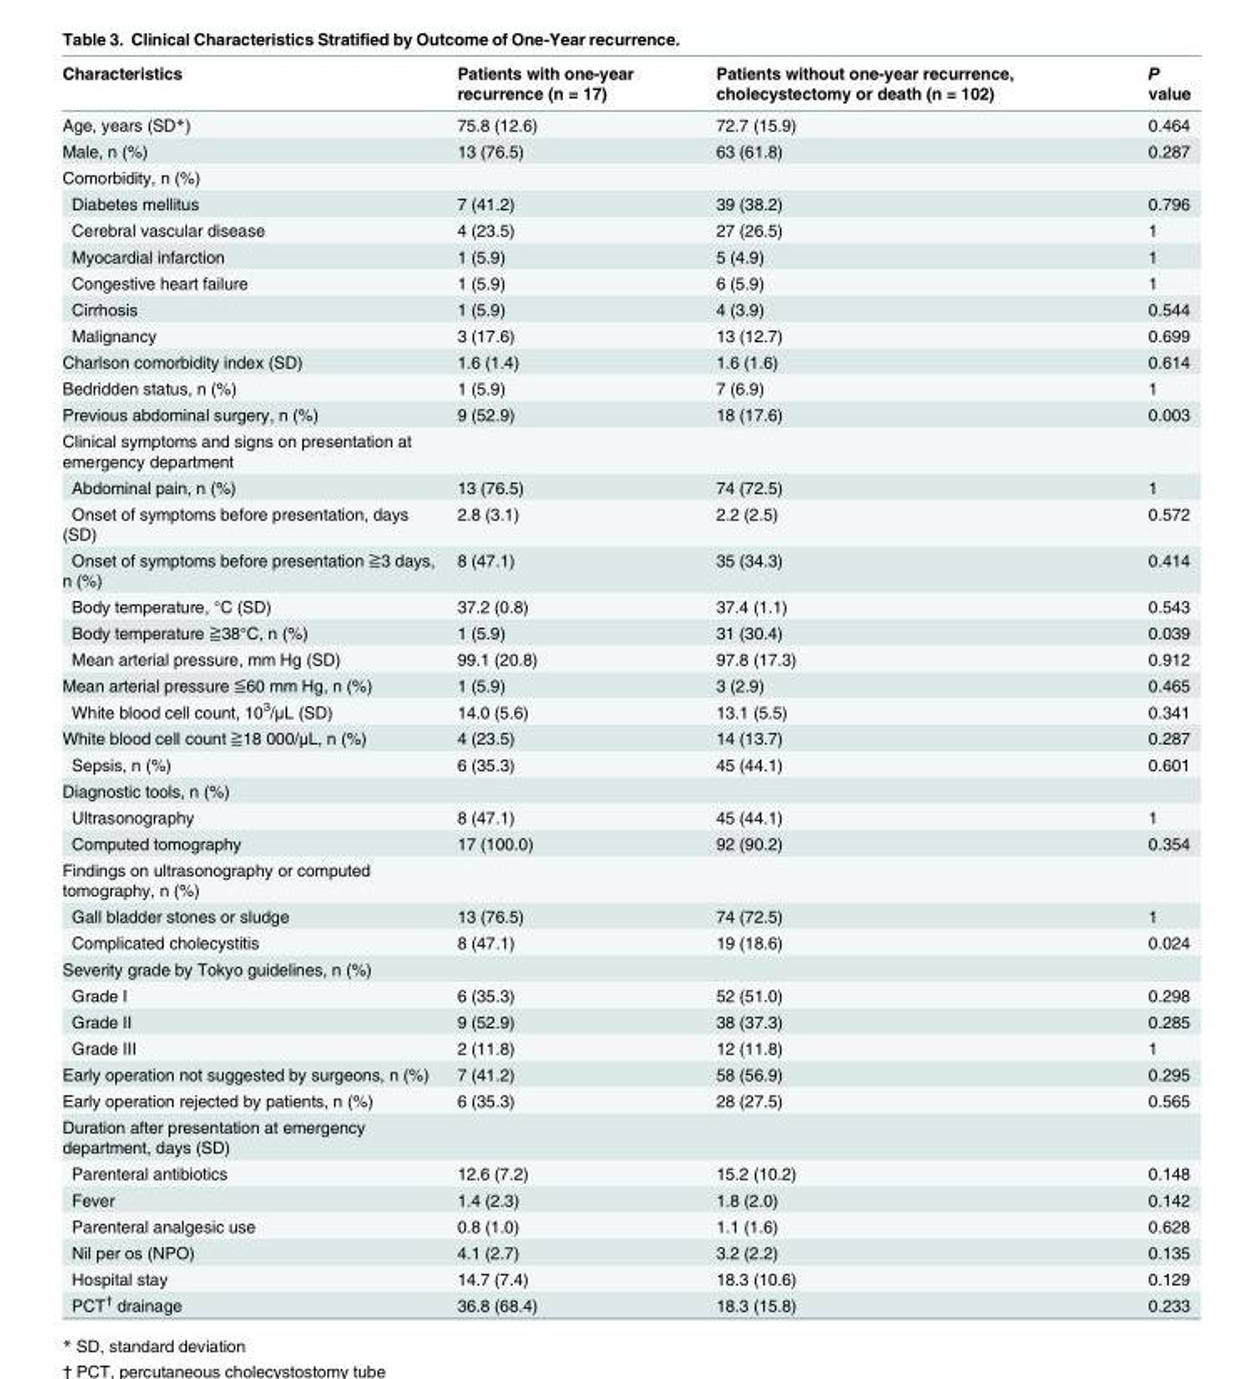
<table><thead><tr><td>Characteristics</td><td>Patients with one-year recurrence (n = 17)</td><td>Patients without one-year recurrence, cholecystectomy or death (n = 102)</td><td>P value</td></tr></thead><tbody><tr><td>Age, years (SD*)</td><td>75.8 (12.6)</td><td>72.7 (15.9)</td><td>0.464</td></tr><tr><td>Male, n (%)</td><td>13 (76.5)</td><td>63 (61.8)</td><td>0.287</td></tr><tr><td colspan="4">Comorbidity, n (%)</td></tr><tr><td>Diabetes mellitus</td><td>7 (41.2)</td><td>39 (38.2)</td><td>0.796</td></tr><tr><td>Cerebral vascular disease</td><td>4 (23.5)</td><td>27 (26.5)</td><td>1</td></tr><tr><td>Myocardial infarction</td><td>1 (5.9)</td><td>5 (4.9)</td><td>1</td></tr><tr><td>Congestive heart failure</td><td>1 (5.9)</td><td>6 (5.9)</td><td>1</td></tr><tr><td>Cirrhosis</td><td>1 (5.9)</td><td>4 (3.9)</td><td>0.544</td></tr><tr><td>Malignancy</td><td>3 (17.6)</td><td>13 (12.7)</td><td>0.699</td></tr><tr><td>Charlson comorbidity index (SD)</td><td>1.6 (1.4)</td><td>1.6 (1.6)</td><td>0.614</td></tr><tr><td>Bedridden status, n (%)</td><td>1 (5.9)</td><td>7 (6.9)</td><td>1</td></tr><tr><td>Previous abdominal surgery, n (%)</td><td>9 (52.9)</td><td>18 (17.6)</td><td>0.003</td></tr><tr><td colspan="4">Clinical symptoms and signs on presentation at emergency department</td></tr><tr><td>Abdominal pain, n (%)</td><td>13 (76.5)</td><td>74 (72.5)</td><td>1</td></tr><tr><td>Onset of symptoms before presentation, days (SD)</td><td>2.8 (3.1)</td><td>2.2 (2.5)</td><td>0.572</td></tr><tr><td>Onset of symptoms before presentation ≧3 days, n (%)</td><td>8 (47.1)</td><td>35 (34.3)</td><td>0.414</td></tr><tr><td>Body temperature, °C (SD)</td><td>37.2 (0.8)</td><td>37.4 (1.1)</td><td>0.543</td></tr><tr><td>Body temperature ≧38°C, n (%)</td><td>1 (5.9)</td><td>31 (30.4)</td><td>0.039</td></tr><tr><td>Mean arterial pressure, mm Hg (SD)</td><td>99.1 (20.8)</td><td>97.8 (17.3)</td><td>0.912</td></tr><tr><td>Mean arterial pressure ≦60 mm Hg, n (%)</td><td>1 (5.9)</td><td>3 (2.9)</td><td>0.465</td></tr><tr><td>White blood cell count, 10<sup>3</sup>/μL (SD)</td><td>14.0 (5.6)</td><td>13.1 (5.5)</td><td>0.341</td></tr><tr><td>White blood cell count ≧18 000/μL, n (%)</td><td>4 (23.5)</td><td>14 (13.7)</td><td>0.287</td></tr><tr><td>Sepsis, n (%)</td><td>6 (35.3)</td><td>45 (44.1)</td><td>0.601</td></tr><tr><td colspan="4">Diagnostic tools, n (%)</td></tr><tr><td>Ultrasonography</td><td>8 (47.1)</td><td>45 (44.1)</td><td>1</td></tr><tr><td>Computed tomography</td><td>17 (100.0)</td><td>92 (90.2)</td><td>0.354</td></tr><tr><td colspan="4">Findings on ultrasonography or computed tomography, n (%)</td></tr><tr><td>Gall bladder stones or sludge</td><td>13 (76.5)</td><td>74 (72.5)</td><td>1</td></tr><tr><td>Complicated cholecystitis</td><td>8 (47.1)</td><td>19 (18.6)</td><td>0.024</td></tr><tr><td colspan="4">Severity grade by Tokyo guidelines, n (%)</td></tr><tr><td>Grade I</td><td>6 (35.3)</td><td>52 (51.0)</td><td>0.298</td></tr><tr><td>Grade II</td><td>9 (52.9)</td><td>38 (37.3)</td><td>0.285</td></tr><tr><td>Grade III</td><td>2 (11.8)</td><td>12 (11.8)</td><td>1</td></tr><tr><td>Early operation not suggested by surgeons, n (%)</td><td>7 (41.2)</td><td>58 (56.9)</td><td>0.295</td></tr><tr><td>Early operation rejected by patients, n (%)</td><td>6 (35.3)</td><td>28 (27.5)</td><td>0.565</td></tr><tr><td colspan="4">Duration after presentation at emergency department, days (SD)</td></tr><tr><td>Parenteral antibiotics</td><td>12.6 (7.2)</td><td>15.2 (10.2)</td><td>0.148</td></tr><tr><td>Fever</td><td>1.4 (2.3)</td><td>1.8 (2.0)</td><td>0.142</td></tr><tr><td>Parenteral analgesic use</td><td>0.8 (1.0)</td><td>1.1 (1.6)</td><td>0.628</td></tr><tr><td>Nil per os (NPO)</td><td>4.1 (2.7)</td><td>3.2 (2.2)</td><td>0.135</td></tr><tr><td>Hospital stay</td><td>14.7 (7.4)</td><td>18.3 (10.6)</td><td>0.129</td></tr><tr><td>PCT<sup>†</sup> drainage</td><td>36.8 (68.4)</td><td>18.3 (15.8)</td><td>0.233</td></tr></tbody></table>